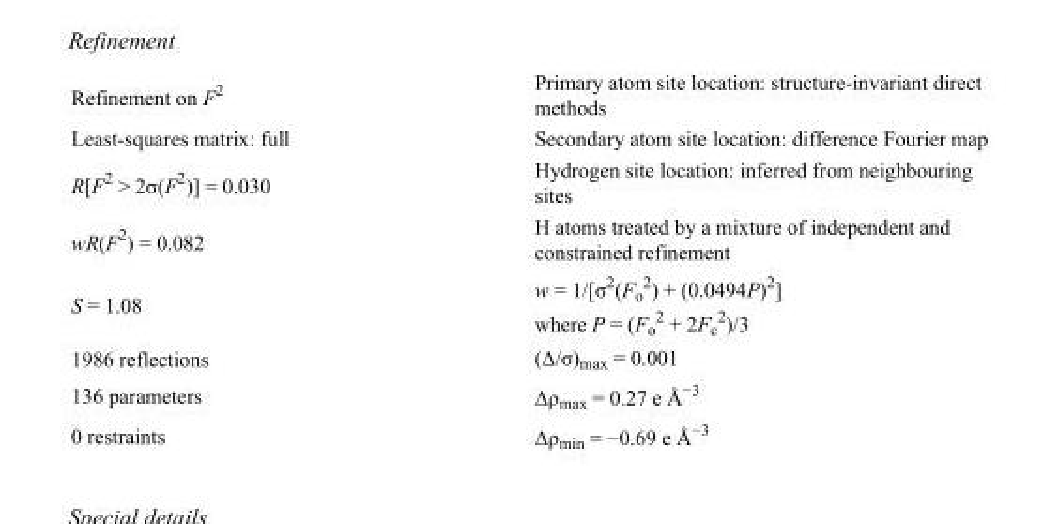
<table><tbody><tr><td>Refinement on F<sup>2</sup></td><td>Primary atom site location: structure-invariant direct methods</td></tr><tr><td>Least-squares matrix: full</td><td>Secondary atom site location: difference Fourier map</td></tr><tr><td>R[F<sup>2</sup> &gt; 2σ(F<sup>2</sup>)] = 0.030</td><td>Hydrogen site location: inferred from neighbouring sites</td></tr><tr><td>wR(F<sup>2</sup>) = 0.082</td><td>H atoms treated by a mixture of independent and constrained refinement</td></tr><tr><td>S = 1.08</td><td>w = 1/[σ<sup>2</sup>(F<sub>o</sub> <sup>2</sup>) + (0.0494P)<sup>2</sup>] where P = (F<sub>o</sub> <sup>2</sup> + 2F<sub>c</sub> <sup>2</sup>)/3</td></tr><tr><td>1986 reflections</td><td>(Δ/σ)<sub>max</sub> = 0.001</td></tr><tr><td>136 parameters</td><td>Δρ<sub>max</sub> = 0.27 e Å<sup>−3</sup></td></tr><tr><td>0 restraints</td><td>Δρ<sub>min</sub> = −0.69 e Å<sup>−3</sup></td></tr></tbody></table>